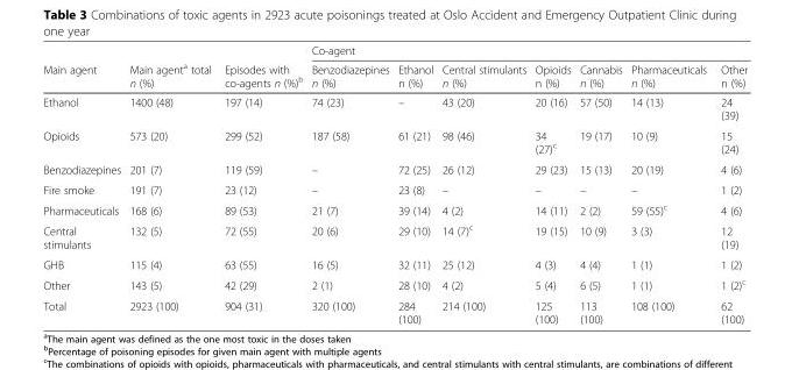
<table><thead><tr><td rowspan="2">Main agent</td><td rowspan="2">Main agent<sup>a</sup> total n (%)</td><td rowspan="2">Episodes with co-agents n (%)<sup>b</sup></td><td colspan="7">Co-agent</td></tr><tr><td>Benzodiazepines n (%)</td><td>Ethanol n (%)</td><td>Central stimulants n (%)</td><td>Opioids n (%)</td><td>Cannabis n (%)</td><td>Pharmaceuticals n (%)</td><td>Other n (%)</td></tr></thead><tbody><tr><td>Ethanol</td><td>1400 (48)</td><td>197 (14)</td><td>74 (23)</td><td>–</td><td>43 (20)</td><td>20 (16)</td><td>57 (50)</td><td>14 (13)</td><td>24 (39)</td></tr><tr><td>Opioids</td><td>573 (20)</td><td>299 (52)</td><td>187 (58)</td><td>61 (21)</td><td>98 (46)</td><td>34 (27)<sup>c</sup></td><td>19 (17)</td><td>10 (9)</td><td>15 (24)</td></tr><tr><td>Benzodiazepines</td><td>201 (7)</td><td>119 (59)</td><td>–</td><td>72 (25)</td><td>26 (12)</td><td>29 (23)</td><td>15 (13)</td><td>20 (19)</td><td>4 (6)</td></tr><tr><td>Fire smoke</td><td>191 (7)</td><td>23 (12)</td><td>–</td><td>23 (8)</td><td>–</td><td>–</td><td>–</td><td>–</td><td>1 (2)</td></tr><tr><td>Pharmaceuticals</td><td>168 (6)</td><td>89 (53)</td><td>21 (7)</td><td>39 (14)</td><td>4 (2)</td><td>14 (11)</td><td>2 (2)</td><td>59 (55)<sup>c</sup></td><td>4 (6)</td></tr><tr><td>Central stimulants</td><td>132 (5)</td><td>72 (55)</td><td>20 (6)</td><td>29 (10)</td><td>14 (7)<sup>c</sup></td><td>19 (15)</td><td>10 (9)</td><td>3 (3)</td><td>12 (19)</td></tr><tr><td>GHB</td><td>115 (4)</td><td>63 (55)</td><td>16 (5)</td><td>32 (11)</td><td>25 (12)</td><td>4 (3)</td><td>4 (4)</td><td>1 (1)</td><td>1 (2)</td></tr><tr><td>Other</td><td>143 (5)</td><td>42 (29)</td><td>2 (1)</td><td>28 (10)</td><td>4 (2)</td><td>5 (4)</td><td>6 (5)</td><td>1 (1)</td><td>1 (2)<sup>c</sup></td></tr><tr><td>Total</td><td>2923 (100)</td><td>904 (31)</td><td>320 (100)</td><td>284 (100)</td><td>214 (100)</td><td>125 (100)</td><td>113 (100)</td><td>108 (100)</td><td>62 (100)</td></tr></tbody></table>